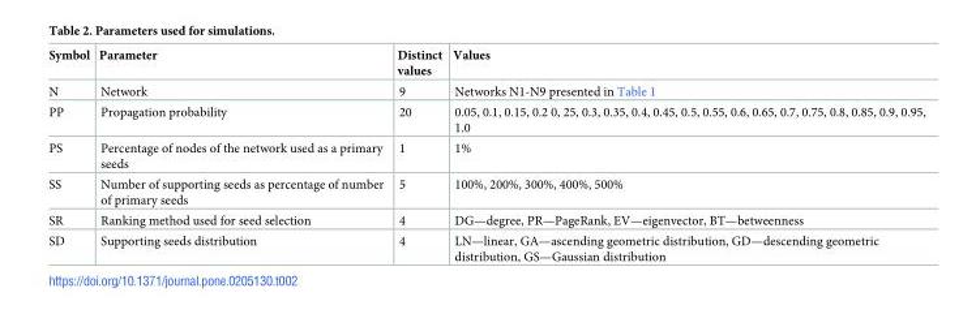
<table><thead><tr><td>Symbol</td><td>Parameter</td><td>Distinct values</td><td>Values</td></tr></thead><tbody><tr><td>N</td><td>Network</td><td>9</td><td>Networks N1-N9 presented in Table 1</td></tr><tr><td>PP</td><td>Propagation probability</td><td>20</td><td>0.05, 0.1, 0.15, 0.2 0, 25, 0.3, 0.35, 0.4, 0.45, 0.5, 0.55, 0.6, 0.65, 0.7, 0.75, 0.8, 0.85, 0.9, 0.95, 1.0</td></tr><tr><td>PS</td><td>Percentage of nodes of the network used as a primary seeds</td><td>1</td><td>1%</td></tr><tr><td>SS</td><td>Number of supporting seeds as percentage of number of primary seeds</td><td>5</td><td>100%, 200%, 300%, 400%, 500%</td></tr><tr><td>SR</td><td>Ranking method used for seed selection</td><td>4</td><td>DG—degree, PR—PageRank, EV—eigenvector, BT—betweenness</td></tr><tr><td>SD</td><td>Supporting seeds distribution</td><td>4</td><td>LN—linear, GA—ascending geometric distribution, GD—descending geometric distribution, GS—Gaussian distribution</td></tr></tbody></table>